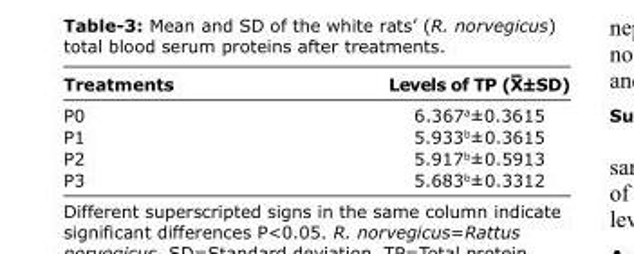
<table><thead><tr><td>Treatments</td><td>Levels of TP (X–±SD)</td></tr></thead><tbody><tr><td>P0</td><td>6.367<sup>a</sup>±0.3615</td></tr><tr><td>P1</td><td>5.933<sup>b</sup>±0.3615</td></tr><tr><td>P2</td><td>5.917<sup>b</sup>±0.5913</td></tr><tr><td>P3</td><td>5.683<sup>b</sup>±0.3312</td></tr></tbody></table>